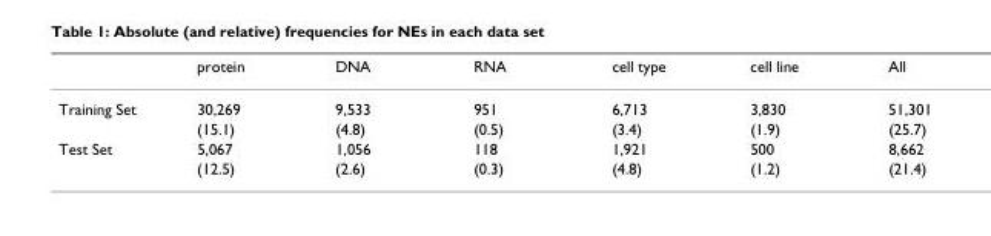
<table><thead><tr><td></td><td>protein</td><td>DNA</td><td>RNA</td><td>cell type</td><td>cell line</td><td>All</td></tr></thead><tbody><tr><td rowspan="2">Training Set</td><td>30,269</td><td>9,533</td><td>951</td><td>6,713</td><td>3,830</td><td>51,301</td></tr><tr><td>(15.1)</td><td>(4.8)</td><td>(0.5)</td><td>(3.4)</td><td>(1.9)</td><td>(25.7)</td></tr><tr><td rowspan="2">Test Set</td><td>5,067</td><td>1,056</td><td>118</td><td>1,921</td><td>500</td><td>8,662</td></tr><tr><td>(12.5)</td><td>(2.6)</td><td>(0.3)</td><td>(4.8)</td><td>(1.2)</td><td>(21.4)</td></tr></tbody></table>